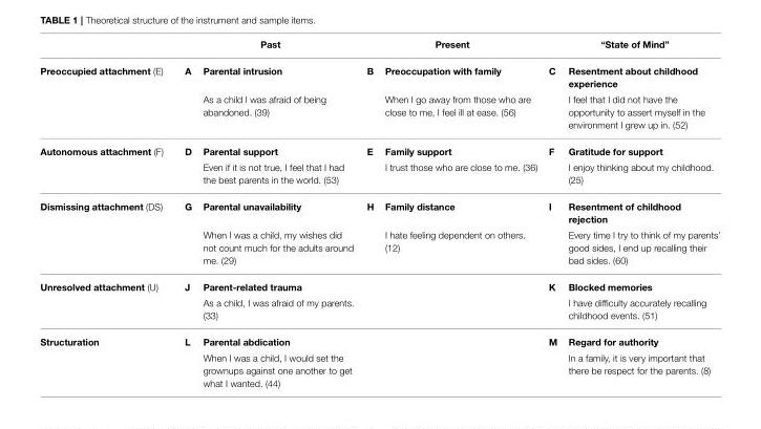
<table><thead><tr><td></td><td></td><td>Past</td><td></td><td>Present</td><td></td><td>“State of Mind”</td></tr></thead><tbody><tr><td rowspan="2">Preoccupied attachment (E)</td><td>A</td><td>Parental intrusion</td><td>B</td><td>Preoccupation with family</td><td>C</td><td>Resentment about childhood experience</td></tr><tr><td></td><td>As a child I was afraid of being abandoned. (39)</td><td></td><td>When I go away from those who are close to me, I feel ill at ease. (56)</td><td></td><td>I feel that I did not have the opportunity to assert myself in the environment I grew up in. (52)</td></tr><tr><td rowspan="2">Autonomous attachment (F)</td><td>D</td><td>Parental support</td><td>E</td><td>Family support</td><td>F</td><td>Gratitude for support</td></tr><tr><td></td><td>Even if it is not true, I feel that I had the best parents in the world. (53)</td><td></td><td>I trust those who are close to me. (36)</td><td></td><td>I enjoy thinking about my childhood. (25)</td></tr><tr><td rowspan="2">Dismissing attachment (DS)</td><td>G</td><td>Parental unavailability</td><td>H</td><td>Family distance</td><td>I</td><td>Resentment of childhood rejection</td></tr><tr><td></td><td>When I was a child, my wishes did not count much for the adults around me. (29)</td><td></td><td>I hate feeling dependent on others. (12)</td><td></td><td>Every time I try to think of my parents’ good sides, I end up recalling their bad sides. (60)</td></tr><tr><td rowspan="2">Unresolved attachment (U)</td><td>J</td><td>Parent-related trauma</td><td></td><td></td><td>K</td><td>Blocked memories</td></tr><tr><td></td><td>As a child, I was afraid of my parents. (33)</td><td></td><td></td><td></td><td>I have difficulty accurately recalling childhood events. (51)</td></tr><tr><td rowspan="2">Structuration</td><td>L</td><td>Parental abdication</td><td></td><td></td><td>M</td><td>Regard for authority</td></tr><tr><td></td><td>When I was a child, I would set the grownups against one another to get what I wanted. (44)</td><td></td><td></td><td></td><td>In a family, it is very important that there be respect for the parents. (8)</td></tr></tbody></table>